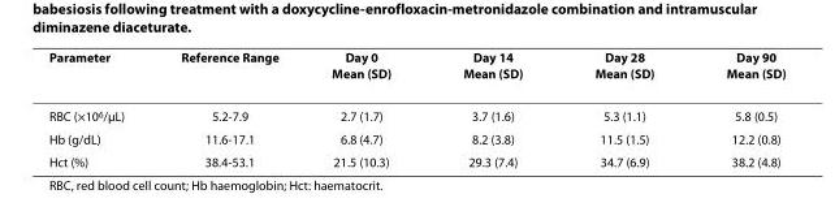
<table><thead><tr><td>Parameter</td><td>Reference Range</td><td>Day 0 Mean (SD)</td><td>Day 14 Mean (SD)</td><td>Day 28 Mean (SD)</td><td>Day 90 Mean (SD)</td></tr></thead><tbody><tr><td>RBC (×10<sup>6</sup>/μL)</td><td>5.2-7.9</td><td>2.7 (1.7)</td><td>3.7 (1.6)</td><td>5.3 (1.1)</td><td>5.8 (0.5)</td></tr><tr><td>Hb (g/dL)</td><td>11.6-17.1</td><td>6.8 (4.7)</td><td>8.2 (3.8)</td><td>11.5 (1.5)</td><td>12.2 (0.8)</td></tr><tr><td>Hct (%)</td><td>38.4-53.1</td><td>21.5 (10.3)</td><td>29.3 (7.4)</td><td>34.7 (6.9)</td><td>38.2 (4.8)</td></tr></tbody></table>